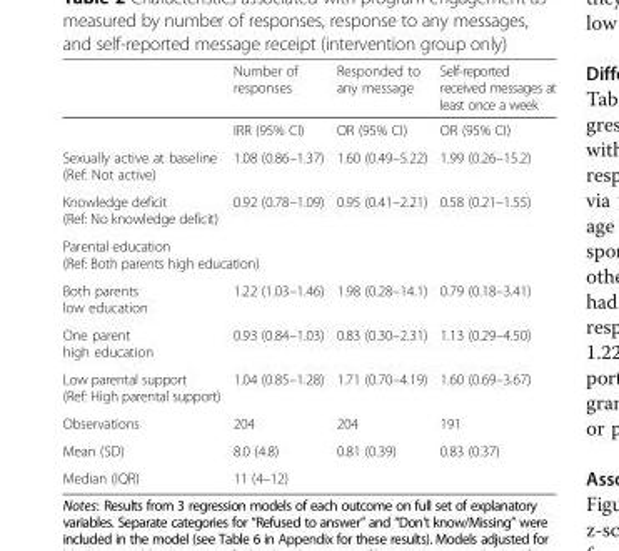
<table><thead><tr><td></td><td>Number of responses</td><td>Responded to any message</td><td>Self-reported received messages at least once a week</td></tr></thead><tbody><tr><td></td><td>IRR (95% CI)</td><td>OR (95% CI)</td><td>OR (95% CI)</td></tr><tr><td>Sexually active at baseline (Ref: Not active)</td><td>1.08 (0.86–1.37)</td><td>1.60 (0.49–5.22)</td><td>1.99 (0.26–15.2)</td></tr><tr><td>Knowledge deficit (Ref: No knowledge deficit)</td><td>0.92 (0.78–1.09)</td><td>0.95 (0.41–2.21)</td><td>0.58 (0.21–1.55)</td></tr><tr><td colspan="4">Parental education (Ref: Both parents high education)</td></tr><tr><td>Both parents low education</td><td>1.22 (1.03–1.46)</td><td>1.98 (0.28–14.1)</td><td>0.79 (0.18–3.41)</td></tr><tr><td>One parent high education</td><td>0.93 (0.84–1.03)</td><td>0.83 (0.30–2.31)</td><td>1.13 (0.29–4.50)</td></tr><tr><td>Low parental support (Ref: High parental support)</td><td>1.04 (0.85–1.28)</td><td>1.71 (0.70–4.19)</td><td>1.60 (0.69–3.67)</td></tr><tr><td>Observations</td><td>204</td><td>204</td><td>191</td></tr><tr><td>Mean (SD)</td><td>8.0 (4.8)</td><td>0.81 (0.39)</td><td>0.83 (0.37)</td></tr><tr><td>Median (IQR)</td><td>11 (4–12)</td><td></td><td></td></tr></tbody></table>